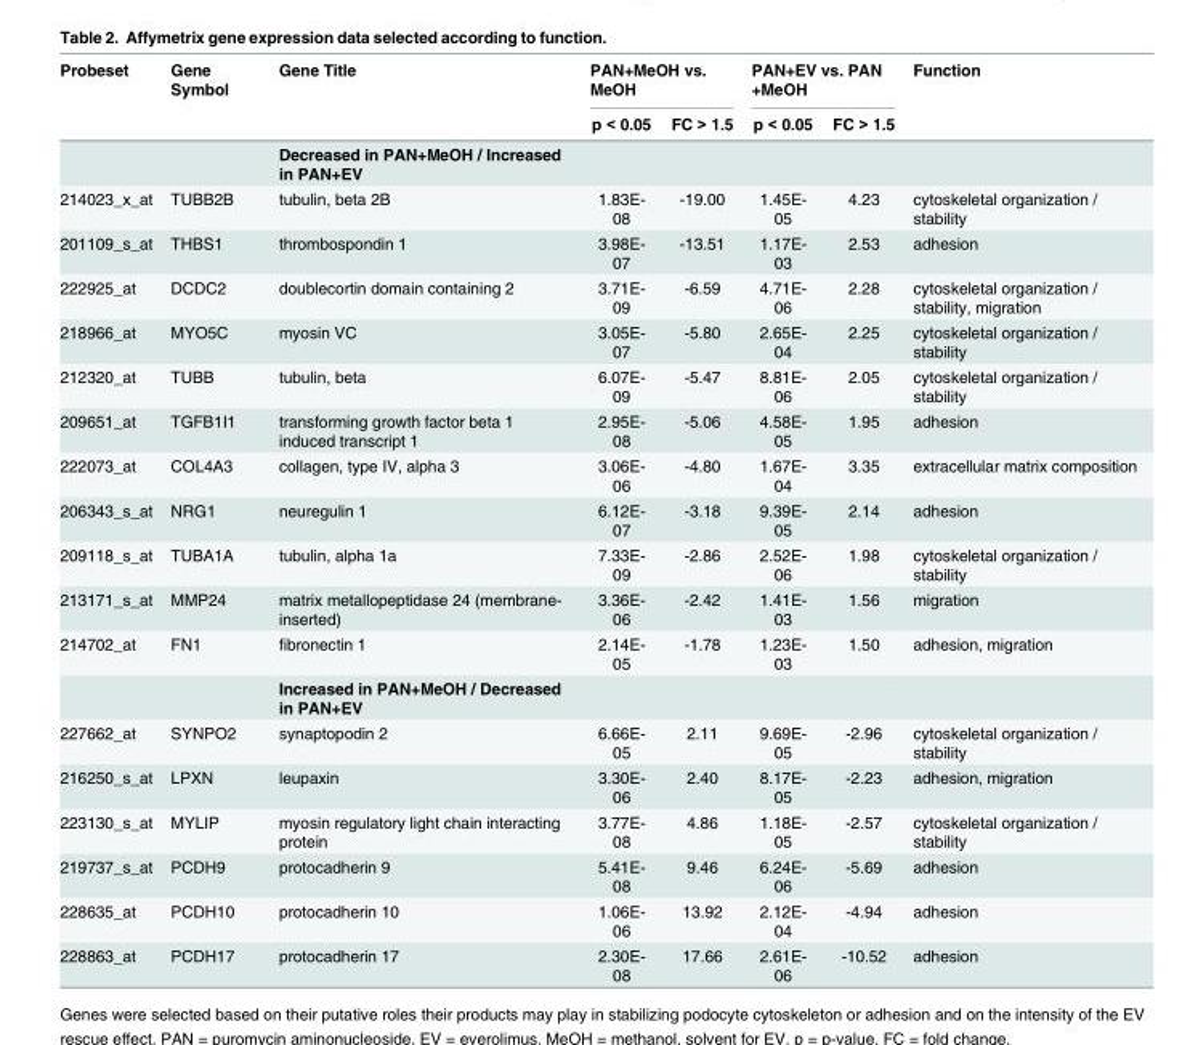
<table><thead><tr><td rowspan="2">Probeset</td><td rowspan="2">Gene Symbol</td><td rowspan="2">Gene Title</td><td colspan="2">PAN+MeOH vs. MeOH</td><td colspan="2">PAN+EV vs. PAN +MeOH</td><td rowspan="2">Function</td></tr><tr><td>p &lt; 0.05</td><td>FC &gt; 1.5</td><td>p &lt; 0.05</td><td>FC &gt; 1.5</td></tr></thead><tbody><tr><td></td><td></td><td>Decreased in PAN+MeOH / Increased in PAN+EV</td><td></td><td></td><td></td><td></td><td></td></tr><tr><td>214023_x_at</td><td>TUBB2B</td><td>tubulin, beta 2B</td><td>1.83E- 08</td><td>-19.00</td><td>1.45E- 05</td><td>4.23</td><td>cytoskeletal organization / stability</td></tr><tr><td>201109_s_at</td><td>THBS1</td><td>thrombospondin 1</td><td>3.98E- 07</td><td>-13.51</td><td>1.17E- 03</td><td>2.53</td><td>adhesion</td></tr><tr><td>222925_at</td><td>DCDC2</td><td>doublecortin domain containing 2</td><td>3.71E- 09</td><td>-6.59</td><td>4.71E- 06</td><td>2.28</td><td>cytoskeletal organization / stability, migration</td></tr><tr><td>218966_at</td><td>MYO5C</td><td>myosin VC</td><td>3.05E- 07</td><td>-5.80</td><td>2.65E- 04</td><td>2.25</td><td>cytoskeletal organization / stability</td></tr><tr><td>212320_at</td><td>TUBB</td><td>tubulin, beta</td><td>6.07E- 09</td><td>-5.47</td><td>8.81E- 06</td><td>2.05</td><td>cytoskeletal organization / stability</td></tr><tr><td>209651_at</td><td>TGFB1I1</td><td>transforming growth factor beta 1 induced transcript 1</td><td>2.95E- 08</td><td>-5.06</td><td>4.58E- 05</td><td>1.95</td><td>adhesion</td></tr><tr><td>222073_at</td><td>COL4A3</td><td>collagen, type IV, alpha 3</td><td>3.06E- 06</td><td>-4.80</td><td>1.67E- 04</td><td>3.35</td><td>extracellular matrix composition</td></tr><tr><td>206343_s_at</td><td>NRG1</td><td>neuregulin 1</td><td>6.12E- 07</td><td>-3.18</td><td>9.39E- 05</td><td>2.14</td><td>adhesion</td></tr><tr><td>209118_s_at</td><td>TUBA1A</td><td>tubulin, alpha 1a</td><td>7.33E- 09</td><td>-2.86</td><td>2.52E- 06</td><td>1.98</td><td>cytoskeletal organization / stability</td></tr><tr><td>213171_s_at</td><td>MMP24</td><td>matrix metallopeptidase 24 (membrane- inserted)</td><td>3.36E- 06</td><td>-2.42</td><td>1.41E- 03</td><td>1.56</td><td>migration</td></tr><tr><td rowspan="2">214702_at</td><td>FN1</td><td>fibronectin 1</td><td>2.14E- 05</td><td>-1.78</td><td>1.23E- 03</td><td>1.50</td><td>adhesion, migration</td></tr><tr><td></td><td>Increased in PAN+MeOH / Decreased in PAN+EV</td><td></td><td></td><td></td><td></td><td></td></tr><tr><td>227662_at</td><td>SYNPO2</td><td>synaptopodin 2</td><td>6.66E- 05</td><td>2.11</td><td>9.69E- 05</td><td>-2.96</td><td>cytoskeletal organization / stability</td></tr><tr><td>216250_s_at</td><td>LPXN</td><td>leupaxin</td><td>3.30E- 06</td><td>2.40</td><td>8.17E- 05</td><td>-2.23</td><td>adhesion, migration</td></tr><tr><td>223130_s_at</td><td>MYLIP</td><td>myosin regulatory light chain interacting protein</td><td>3.77E- 08</td><td>4.86</td><td>1.18E- 05</td><td>-2.57</td><td>cytoskeletal organization / stability</td></tr><tr><td>219737_s_at</td><td>PCDH9</td><td>protocadherin 9</td><td>5.41E- 08</td><td>9.46</td><td>6.24E- 06</td><td>-5.69</td><td>adhesion</td></tr><tr><td>228635_at</td><td>PCDH10</td><td>protocadherin 10</td><td>1.06E- 06</td><td>13.92</td><td>2.12E- 04</td><td>-4.94</td><td>adhesion</td></tr><tr><td>228863_at</td><td>PCDH17</td><td>protocadherin 17</td><td>2.30E- 08</td><td>17.66</td><td>2.61E- 06</td><td>-10.52</td><td>adhesion</td></tr></tbody></table>